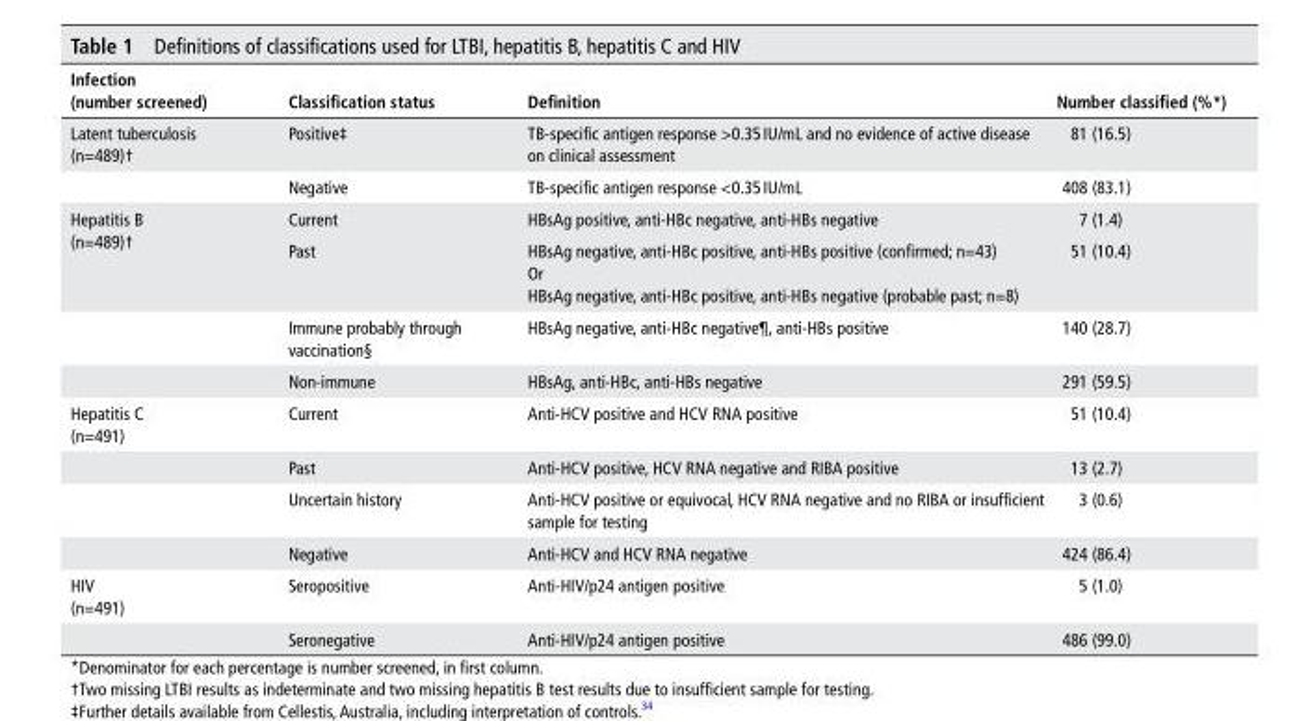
<table><thead><tr><td>Infection (number screened)</td><td>Classification status</td><td>definition</td><td>number classified (%*)</td></tr></thead><tbody><tr><td rowspan="2">Latent tuberculosis (n=489)†</td><td>Positive‡</td><td>TB-specific antigen response &gt;0.35 IU/mL and no evidence of active disease on clinical assessment</td><td>81 (16.5)</td></tr><tr><td>Negative</td><td>TB-specific antigen response &lt;0.35 IU/mL</td><td>408 (83.1)</td></tr><tr><td rowspan="4">Hepatitis B (n=489)†</td><td>Current</td><td>HBsAg positive, anti-HBc negative, anti-HBs negative</td><td>7 (1.4)</td></tr><tr><td>Past</td><td>HBsAg negative, anti-HBc positive, anti-HBs positive (confirmed; n=43) Or HBsAg negative, anti-HBc positive, anti-HBs negative (probable past; n=8)</td><td>51 (10.4)</td></tr><tr><td>Immune probably through vaccination§</td><td>HBsAg negative, anti-HBc negative¶, anti-HBs positive</td><td>140 (28.7)</td></tr><tr><td>Non-immune</td><td>HBsAg, anti-HBc, anti-HBs negative</td><td>291 (59.5)</td></tr><tr><td rowspan="4">Hepatitis C (n=491)</td><td>Current</td><td>Anti-HCV positive and HCV RNA positive</td><td>51 (10.4)</td></tr><tr><td>Past</td><td>Anti-HCV positive, HCV RNA negative and RIBA positive</td><td>13 (2.7)</td></tr><tr><td>Uncertain history</td><td>Anti-HCV positive or equivocal, HCV RNA negative and no RIBA or insufficient sample for testing</td><td>3 (0.6)</td></tr><tr><td>Negative</td><td>Anti-HCV and HCV RNA negative</td><td>424 (86.4)</td></tr><tr><td rowspan="2">HIV (n=491)</td><td>Seropositive</td><td>Anti-HIV/p24 antigen positive</td><td>5 (1.0)</td></tr><tr><td>Seronegative</td><td>Anti-HIV/p24 antigen positive</td><td>486 (99.0)</td></tr></tbody></table>